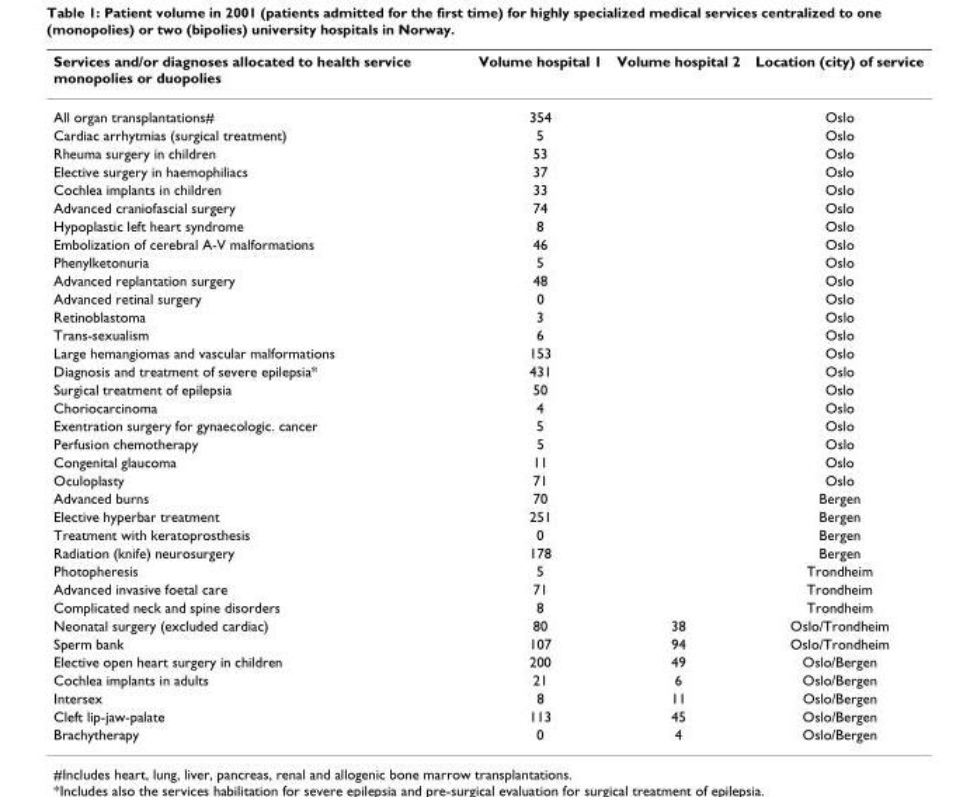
<table><thead><tr><td>Services and/or diagnoses allocated to health service monopolies or duopolies</td><td>Volume hospital 1</td><td>Volume hospital 2</td><td>Location (city) of service</td></tr></thead><tbody><tr><td>All organ transplantations#</td><td>354</td><td></td><td>Oslo</td></tr><tr><td>Cardiac arrhytmias (surgical treatment)</td><td>5</td><td></td><td>Oslo</td></tr><tr><td>Rheuma surgery in children</td><td>53</td><td></td><td>Oslo</td></tr><tr><td>Elective surgery in haemophiliacs</td><td>37</td><td></td><td>Oslo</td></tr><tr><td>Cochlea implants in children</td><td>33</td><td></td><td>Oslo</td></tr><tr><td>Advanced craniofascial surgery</td><td>74</td><td></td><td>Oslo</td></tr><tr><td>Hypoplastic left heart syndrome</td><td>8</td><td></td><td>Oslo</td></tr><tr><td>Embolization of cerebral A-V malformations</td><td>46</td><td></td><td>Oslo</td></tr><tr><td>Phenylketonuria</td><td>5</td><td></td><td>Oslo</td></tr><tr><td>Advanced replantation surgery</td><td>48</td><td></td><td>Oslo</td></tr><tr><td>Advanced retinal surgery</td><td>0</td><td></td><td>Oslo</td></tr><tr><td>Retinoblastoma</td><td>3</td><td></td><td>Oslo</td></tr><tr><td>Trans-sexualism</td><td>6</td><td></td><td>Oslo</td></tr><tr><td>Large hemangiomas and vascular malformations</td><td>153</td><td></td><td>Oslo</td></tr><tr><td>Diagnosis and treatment of severe epilepsia*</td><td>431</td><td></td><td>Oslo</td></tr><tr><td>Surgical treatment of epilepsia</td><td>50</td><td></td><td>Oslo</td></tr><tr><td>Choriocarcinoma</td><td>4</td><td></td><td>Oslo</td></tr><tr><td>Exentration surgery for gynaecologic. cancer</td><td>5</td><td></td><td>Oslo</td></tr><tr><td>Perfusion chemotherapy</td><td>5</td><td></td><td>Oslo</td></tr><tr><td>Congenital glaucoma</td><td>11</td><td></td><td>Oslo</td></tr><tr><td>Oculoplasty</td><td>71</td><td></td><td>Oslo</td></tr><tr><td>Advanced burns</td><td>70</td><td></td><td>Bergen</td></tr><tr><td>Elective hyperbar treatment</td><td>251</td><td></td><td>Bergen</td></tr><tr><td>Treatment with keratoprosthesis</td><td>0</td><td></td><td>Bergen</td></tr><tr><td>Radiation (knife) neurosurgery</td><td>178</td><td></td><td>Bergen</td></tr><tr><td>Photopheresis</td><td>5</td><td></td><td>Trondheim</td></tr><tr><td>Advanced invasive foetal care</td><td>71</td><td></td><td>Trondheim</td></tr><tr><td>Complicated neck and spine disorders</td><td>8</td><td></td><td>Trondheim</td></tr><tr><td>Neonatal surgery (excluded cardiac)</td><td>80</td><td>38</td><td>Oslo/Trondheim</td></tr><tr><td>Sperm bank</td><td>107</td><td>94</td><td>Oslo/Trondheim</td></tr><tr><td>Elective open heart surgery in children</td><td>200</td><td>49</td><td>Oslo/Bergen</td></tr><tr><td>Cochlea implants in adults</td><td>21</td><td>6</td><td>Oslo/Bergen</td></tr><tr><td>Intersex</td><td>8</td><td>11</td><td>Oslo/Bergen</td></tr><tr><td>Cleft lip-jaw-palate</td><td>113</td><td>45</td><td>Oslo/Bergen</td></tr><tr><td>Brachytherapy</td><td>0</td><td>4</td><td>Oslo/Bergen</td></tr></tbody></table>